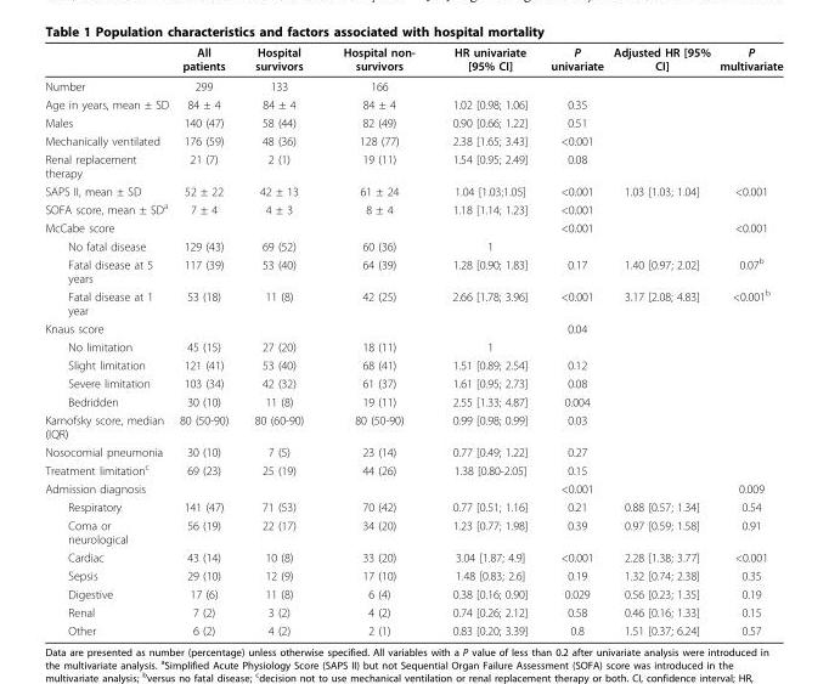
<table><thead><tr><td></td><td>All patients</td><td>Hospital survivors</td><td>Hospital non- survivors</td><td>HR univariate [95% CI]</td><td>P univariate</td><td>Adjusted HR [95% CI]</td><td>P multivariate</td></tr></thead><tbody><tr><td>Number</td><td>299</td><td>133</td><td>166</td><td></td><td></td><td></td><td></td></tr><tr><td>Age in years, mean ± SD</td><td>84 ± 4</td><td>84 ± 4</td><td>84 ± 4</td><td>1.02 [0.98; 1.06]</td><td>0.35</td><td></td><td></td></tr><tr><td>Males</td><td>140 (47)</td><td>58 (44)</td><td>82 (49)</td><td>0.90 [0.66; 1.22]</td><td>0.51</td><td></td><td></td></tr><tr><td>Mechanically ventilated</td><td>176 (59)</td><td>48 (36)</td><td>128 (77)</td><td>2.38 [1.65; 3.43]</td><td>&lt;0.001</td><td></td><td></td></tr><tr><td>Renal replacement therapy</td><td>21 (7)</td><td>2 (1)</td><td>19 (11)</td><td>1.54 [0.95; 2.49]</td><td>0.08</td><td></td><td></td></tr><tr><td>SAPS II, mean ± SD</td><td>52 ± 22</td><td>42 ± 13</td><td>61 ± 24</td><td>1.04 [1.03;1.05]</td><td>&lt;0.001</td><td>1.03 [1.03; 1.04]</td><td>&lt;0.001</td></tr><tr><td>SOFA score, mean ± SD<sup>a</sup></td><td>7 ± 4</td><td>4 ± 3</td><td>8 ± 4</td><td>1.18 [1.14; 1.23]</td><td>&lt;0.001</td><td></td><td></td></tr><tr><td>McCabe score</td><td></td><td></td><td></td><td></td><td>&lt;0.001</td><td></td><td>&lt;0.001</td></tr><tr><td>No fatal disease</td><td>129 (43)</td><td>69 (52)</td><td>60 (36)</td><td>1</td><td></td><td></td><td></td></tr><tr><td>Fatal disease at 5 years</td><td>117 (39)</td><td>53 (40)</td><td>64 (39)</td><td>1.28 [0.90; 1.83]</td><td>0.17</td><td>1.40 [0.97; 2.02]</td><td>0.07<sup>b</sup></td></tr><tr><td>Fatal disease at 1 year</td><td>53 (18)</td><td>11 (8)</td><td>42 (25)</td><td>2.66 [1.78; 3.96]</td><td>&lt;0.001</td><td>3.17 [2.08; 4.83]</td><td>&lt;0.001<sup>b</sup></td></tr><tr><td>Knaus score</td><td></td><td></td><td></td><td></td><td>0.04</td><td></td><td></td></tr><tr><td>No limitation</td><td>45 (15)</td><td>27 (20)</td><td>18 (11)</td><td>1</td><td></td><td></td><td></td></tr><tr><td>Slight limitation</td><td>121 (41)</td><td>53 (40)</td><td>68 (41)</td><td>1.51 [0.89; 2.54]</td><td>0.12</td><td></td><td></td></tr><tr><td>Severe limitation</td><td>103 (34)</td><td>42 (32)</td><td>61 (37)</td><td>1.61 [0.95; 2.73]</td><td>0.08</td><td></td><td></td></tr><tr><td>Bedridden</td><td>30 (10)</td><td>11 (8)</td><td>19 (11)</td><td>2.55 [1.33; 4.87]</td><td>0.004</td><td></td><td></td></tr><tr><td>Karnofsky score, median (IQR)</td><td>80 (50-90)</td><td>80 (60-90)</td><td>80 (50-90)</td><td>0.99 [0.98; 0.99]</td><td>0.03</td><td></td><td></td></tr><tr><td>Nosocomial pneumonia</td><td>30 (10)</td><td>7 (5)</td><td>23 (14)</td><td>0.77 [0.49; 1.22]</td><td>0.27</td><td></td><td></td></tr><tr><td>Treatment limitation<sup>c</sup></td><td>69 (23)</td><td>25 (19)</td><td>44 (26)</td><td>1.38 [0.80-2.05]</td><td>0.15</td><td></td><td></td></tr><tr><td>Admission diagnosis</td><td></td><td></td><td></td><td></td><td>&lt;0.001</td><td></td><td>0.009</td></tr><tr><td>Respiratory</td><td>141 (47)</td><td>71 (53)</td><td>70 (42)</td><td>0.77 [0.51; 1.16]</td><td>0.21</td><td>0.88 [0.57; 1.34]</td><td>0.54</td></tr><tr><td>Coma or neurological</td><td>56 (19)</td><td>22 (17)</td><td>34 (20)</td><td>1.23 [0.77; 1.98]</td><td>0.39</td><td>0.97 [0.59; 1.58]</td><td>0.91</td></tr><tr><td>Cardiac</td><td>43 (14)</td><td>10 (8)</td><td>33 (20)</td><td>3.04 [1.87; 4.9]</td><td>&lt;0.001</td><td>2.28 [1.38; 3.77]</td><td>&lt;0.001</td></tr><tr><td>Sepsis</td><td>29 (10)</td><td>12 (9)</td><td>17 (10)</td><td>1.48 [0.83; 2.6]</td><td>0.19</td><td>1.32 [0.74; 2.38]</td><td>0.35</td></tr><tr><td>Digestive</td><td>17 (6)</td><td>11 (8)</td><td>6 (4)</td><td>0.38 [0.16; 0.90]</td><td>0.029</td><td>0.56 [0.23; 1.35]</td><td>0.19</td></tr><tr><td>Renal</td><td>7 (2)</td><td>3 (2)</td><td>4 (2)</td><td>0.74 [0.26; 2.12]</td><td>0.58</td><td>0.46 [0.16; 1.33]</td><td>0.15</td></tr><tr><td>Other</td><td>6 (2)</td><td>4 (2)</td><td>2 (1)</td><td>0.83 [0.20; 3.39]</td><td>0.8</td><td>1.51 [0.37; 6.24]</td><td>0.57</td></tr></tbody></table>